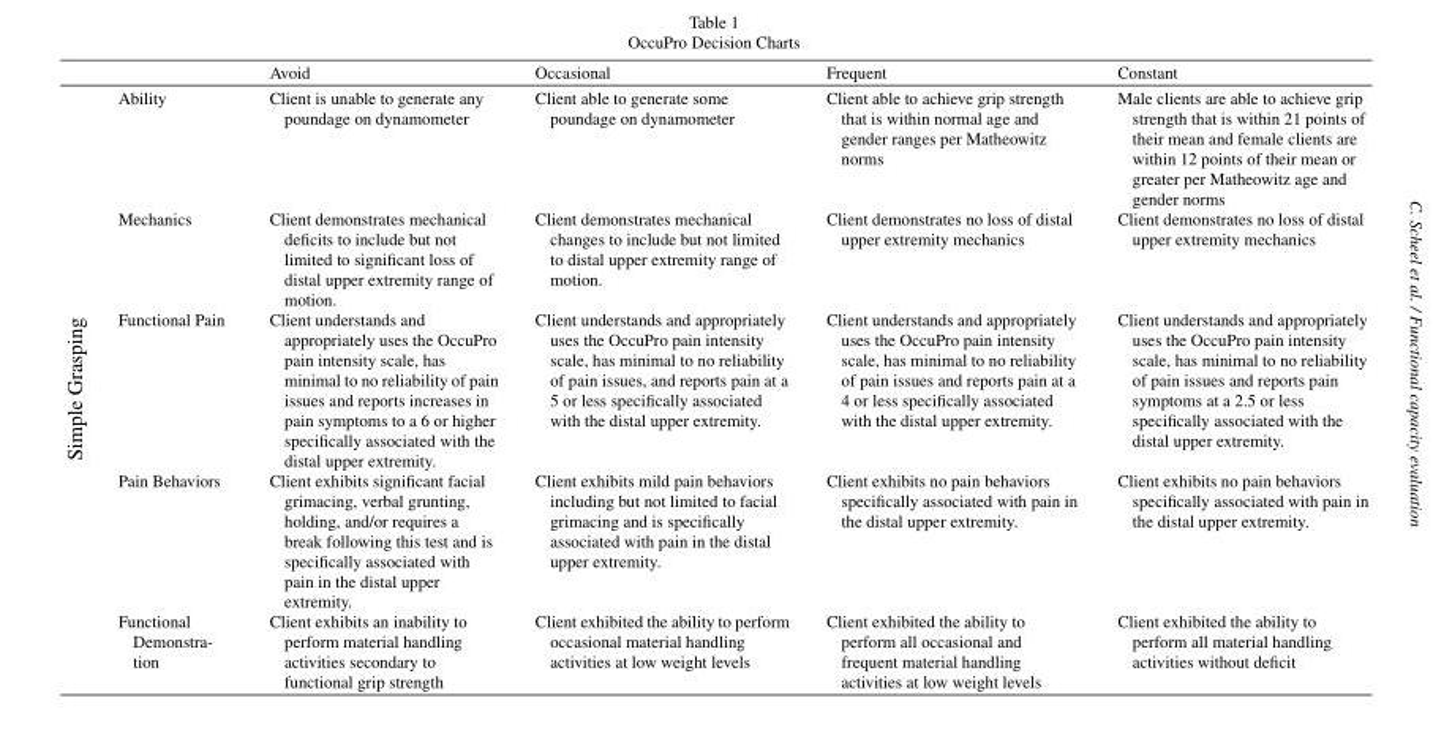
<table><thead><tr><td></td><td></td><td>Avoid</td><td>Occasional</td><td>Frequent</td><td>Constant</td></tr></thead><tbody><tr><td rowspan="5">Simple Grasping</td><td>Ability</td><td>Client is unable to generate any poundage on dynamometer</td><td>Client able to generate some poundage on dynamometer</td><td>Client able to achieve grip strength that is within normal age and gender ranges per Matheowitz norms</td><td>Male clients are able to achieve grip strength that is within 21 points of their mean and female clients are within 12 points of their mean or greater per Matheowitz age and gender norms</td></tr><tr><td>Mechanics</td><td>Client demonstrates mechanical deficits to include but not limited to significant loss of distal upper extremity range of motion.</td><td>Client demonstrates mechanical changes to include but not limited to distal upper extremity range of motion.</td><td>Client demonstrates no loss of distal upper extremity mechanics</td><td>Client demonstrates no loss of distal upper extremity mechanics</td></tr><tr><td>Functional Pain</td><td>Client understands and appropriately uses the OccuPro pain intensity scale, has minimal to no reliability of pain issues and reports increases in pain symptoms to a 6 or higher specifically associated with the distal upper extremity.</td><td>Client understands and appropriately uses the OccuPro pain intensity scale, has minimal to no reliability of pain issues, and reports pain at a 5 or less specifically associated with the distal upper extremity.</td><td>Client understands and appropriately uses the OccuPro pain intensity scale, has minimal to no reliability of pain issues and reports pain at a 4 or less specifically associated with the distal upper extremity.</td><td>Client understands and appropriately uses the OccuPro pain intensity scale, has minimal to no reliability of pain issues and reports pain symptoms at a 2.5 or less specifically associated with the distal upper extremity.</td></tr><tr><td>Pain Behaviors</td><td>Client exhibits significant facial grimacing, verbal grunting, holding, and/or requires a break following this test and is specifically associated with pain in the distal upper extremity.</td><td>Client exhibits mild pain behaviors including but not limited to facial grimacing and is specifically associated with pain in the distal upper extremity.</td><td>Client exhibits no pain behaviors specifically associated with pain in the distal upper extremity.</td><td>Client exhibits no pain behaviors specifically associated with pain in the distal upper extremity.</td></tr><tr><td>Functional Demonstra- tion</td><td>Client exhibits an inability to perform material handling activities secondary to functional grip strength</td><td>Client exhibited the ability to perform occasional material handling activities at low weight levels</td><td>Client exhibited the ability to perform all occasional and frequent material handling activities at low weight levels</td><td>Client exhibited the ability to perform all material handling activities without deficit</td></tr></tbody></table>